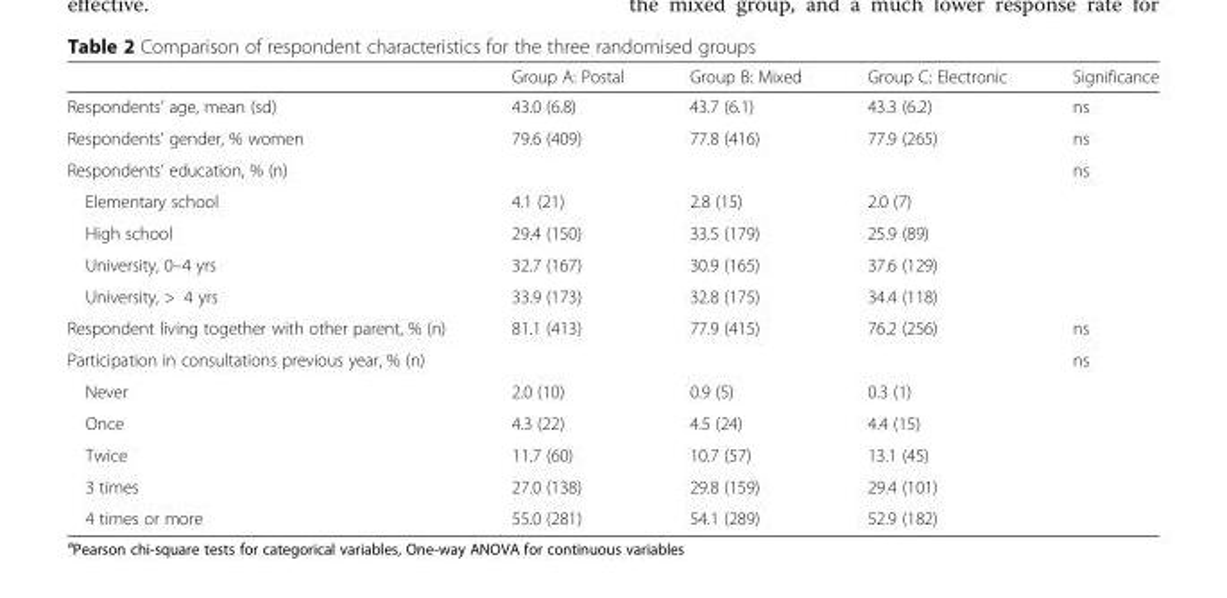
<table><thead><tr><td></td><td>Group A: Postal</td><td>Group B: Mixed</td><td>Group C: Electronic</td><td>Significance</td></tr></thead><tbody><tr><td>Respondents’ age, mean (sd)</td><td>43.0 (6.8)</td><td>43.7 (6.1)</td><td>43.3 (6.2)</td><td>ns</td></tr><tr><td>Respondents’ gender, % women</td><td>79.6 (409)</td><td>77.8 (416)</td><td>77.9 (265)</td><td>ns</td></tr><tr><td>Respondents’ education, % (n)</td><td></td><td></td><td></td><td>ns</td></tr><tr><td>Elementary school</td><td>4.1 (21)</td><td>2.8 (15)</td><td>2.0 (7)</td><td></td></tr><tr><td>High school</td><td>29.4 (150)</td><td>33.5 (179)</td><td>25.9 (89)</td><td></td></tr><tr><td>University, 0–4 yrs</td><td>32.7 (167)</td><td>30.9 (165)</td><td>37.6 (129)</td><td></td></tr><tr><td>University, &gt; 4 yrs</td><td>33.9 (173)</td><td>32.8 (175)</td><td>34.4 (118)</td><td></td></tr><tr><td>Respondent living together with other parent, % (n)</td><td>81.1 (413)</td><td>77.9 (415)</td><td>76.2 (256)</td><td>ns</td></tr><tr><td>Participation in consultations previous year, % (n)</td><td></td><td></td><td></td><td>ns</td></tr><tr><td>Never</td><td>2.0 (10)</td><td>0.9 (5)</td><td>0.3 (1)</td><td></td></tr><tr><td>Once</td><td>4.3 (22)</td><td>4.5 (24)</td><td>4.4 (15)</td><td></td></tr><tr><td>Twice</td><td>11.7 (60)</td><td>10.7 (57)</td><td>13.1 (45)</td><td></td></tr><tr><td>3 times</td><td>27.0 (138)</td><td>29.8 (159)</td><td>29.4 (101)</td><td></td></tr><tr><td>4 times or more</td><td>55.0 (281)</td><td>54.1 (289)</td><td>52.9 (182)</td><td></td></tr></tbody></table>